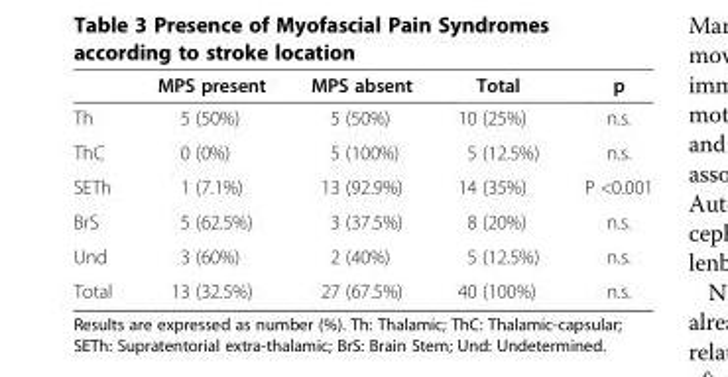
<table><thead><tr><td></td><td>MPS present</td><td>MPS absent</td><td>Total</td><td>p</td></tr></thead><tbody><tr><td>Th</td><td>5 (50%)</td><td>5 (50%)</td><td>10 (25%)</td><td>n.s.</td></tr><tr><td>ThC</td><td>0 (0%)</td><td>5 (100%)</td><td>5 (12.5%)</td><td>n.s.</td></tr><tr><td>SETh</td><td>1 (7.1%)</td><td>13 (92.9%)</td><td>14 (35%)</td><td>P &lt;0.001</td></tr><tr><td>BrS</td><td>5 (62.5%)</td><td>3 (37.5%)</td><td>8 (20%)</td><td>n.s.</td></tr><tr><td>Und</td><td>3 (60%)</td><td>2 (40%)</td><td>5 (12.5%)</td><td>n.s.</td></tr><tr><td>Total</td><td>13 (32.5%)</td><td>27 (67.5%)</td><td>40 (100%)</td><td>n.s.</td></tr></tbody></table>